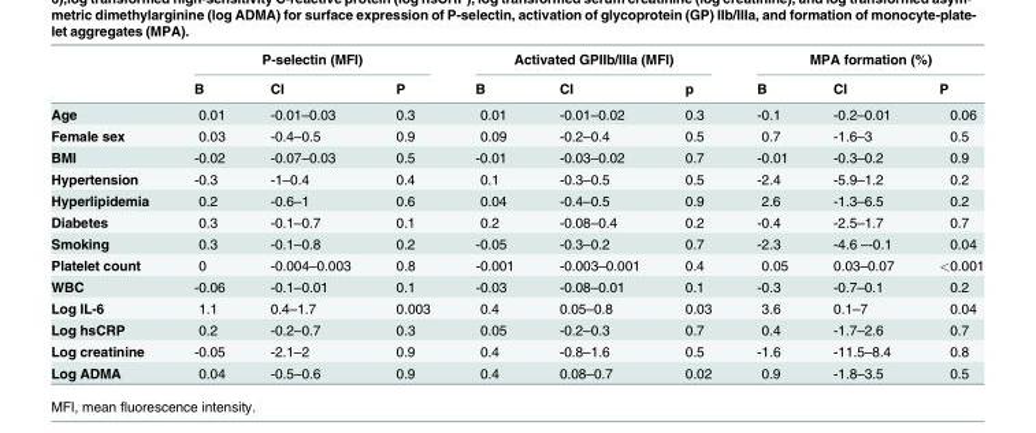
<table><thead><tr><td rowspan="2"></td><td colspan="3">P-selectin (MFI)</td><td colspan="3">Activated GPIIb/IIIa (MFI)</td><td colspan="3">MPA formation (%)</td></tr><tr><td>B</td><td>CI</td><td>P</td><td>B</td><td>CI</td><td>p</td><td>B</td><td>CI</td><td>P</td></tr></thead><tbody><tr><td>Age</td><td>0.01</td><td>-0.01–0.03</td><td>0.3</td><td>0.01</td><td>-0.01–0.02</td><td>0.3</td><td>-0.1</td><td>-0.2–0.01</td><td>0.06</td></tr><tr><td>Female sex</td><td>0.03</td><td>-0.4–0.5</td><td>0.9</td><td>0.09</td><td>-0.2–0.4</td><td>0.5</td><td>0.7</td><td>-1.6–3</td><td>0.5</td></tr><tr><td>BMI</td><td>-0.02</td><td>-0.07–0.03</td><td>0.5</td><td>-0.01</td><td>-0.03–0.02</td><td>0.7</td><td>-0.01</td><td>-0.3–0.2</td><td>0.9</td></tr><tr><td>Hypertension</td><td>-0.3</td><td>-1–0.4</td><td>0.4</td><td>0.1</td><td>-0.3–0.5</td><td>0.5</td><td>-2.4</td><td>-5.9–1.2</td><td>0.2</td></tr><tr><td>Hyperlipidemia</td><td>0.2</td><td>-0.6–1</td><td>0.6</td><td>0.04</td><td>-0.4–0.5</td><td>0.9</td><td>2.6</td><td>-1.3–6.5</td><td>0.2</td></tr><tr><td>Diabetes</td><td>0.3</td><td>-0.1–0.7</td><td>0.1</td><td>0.2</td><td>-0.08–0.4</td><td>0.2</td><td>-0.4</td><td>-2.5–1.7</td><td>0.7</td></tr><tr><td>Smoking</td><td>0.3</td><td>-0.1–0.8</td><td>0.2</td><td>-0.05</td><td>-0.3–0.2</td><td>0.7</td><td>-2.3</td><td>-4.6 –-0.1</td><td>0.04</td></tr><tr><td>Platelet count</td><td>0</td><td>-0.004–0.003</td><td>0.8</td><td>-0.001</td><td>-0.003–0.001</td><td>0.4</td><td>0.05</td><td>0.03–0.07</td><td>&lt;0.001</td></tr><tr><td>WBC</td><td>-0.06</td><td>-0.1–0.01</td><td>0.1</td><td>-0.03</td><td>-0.08–0.01</td><td>0.1</td><td>-0.3</td><td>-0.7–0.1</td><td>0.2</td></tr><tr><td>Log IL-6</td><td>1.1</td><td>0.4–1.7</td><td>0.003</td><td>0.4</td><td>0.05–0.8</td><td>0.03</td><td>3.6</td><td>0.1–7</td><td>0.04</td></tr><tr><td>Log hsCRP</td><td>0.2</td><td>-0.2–0.7</td><td>0.3</td><td>0.05</td><td>-0.2–0.3</td><td>0.7</td><td>0.4</td><td>-1.7–2.6</td><td>0.7</td></tr><tr><td>Log creatinine</td><td>-0.05</td><td>-2.1–2</td><td>0.9</td><td>0.4</td><td>-0.8–1.6</td><td>0.5</td><td>-1.6</td><td>-11.5–8.4</td><td>0.8</td></tr><tr><td>Log ADMA</td><td>0.04</td><td>-0.5–0.6</td><td>0.9</td><td>0.4</td><td>0.08–0.7</td><td>0.02</td><td>0.9</td><td>-1.8–3.5</td><td>0.5</td></tr></tbody></table>